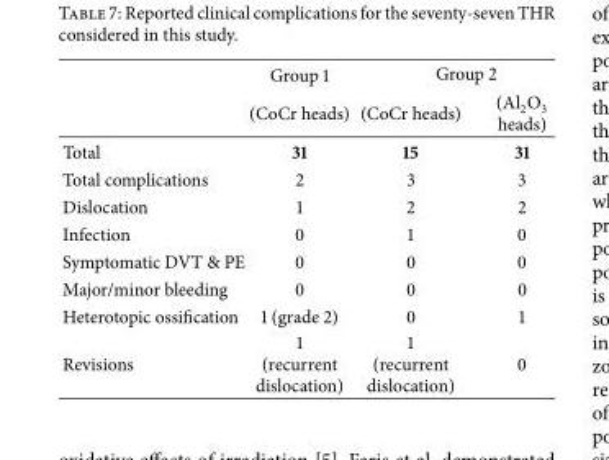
<table><thead><tr><td rowspan="2"></td><td rowspan="2">Group 1 (CoCr heads)</td><td colspan="2">Group 2</td></tr><tr><td>(CoCr heads)</td><td>(Al<sub>2</sub>O<sub>3</sub> heads)</td></tr></thead><tbody><tr><td>Total</td><td>31</td><td>15</td><td>31</td></tr><tr><td>Total complications</td><td>2</td><td>3</td><td>3</td></tr><tr><td>Dislocation</td><td>1</td><td>2</td><td>2</td></tr><tr><td>Infection</td><td>0</td><td>1</td><td>0</td></tr><tr><td>Symptomatic DVT &amp; PE</td><td>0</td><td>0</td><td>0</td></tr><tr><td>Major/minor bleeding</td><td>0</td><td>0</td><td>0</td></tr><tr><td>Heterotopic ossification</td><td>1 (grade 2)</td><td>0</td><td>1</td></tr><tr><td>Revisions</td><td>1 (recurrent dislocation)</td><td>1 (recurrent dislocation)</td><td>0</td></tr></tbody></table>